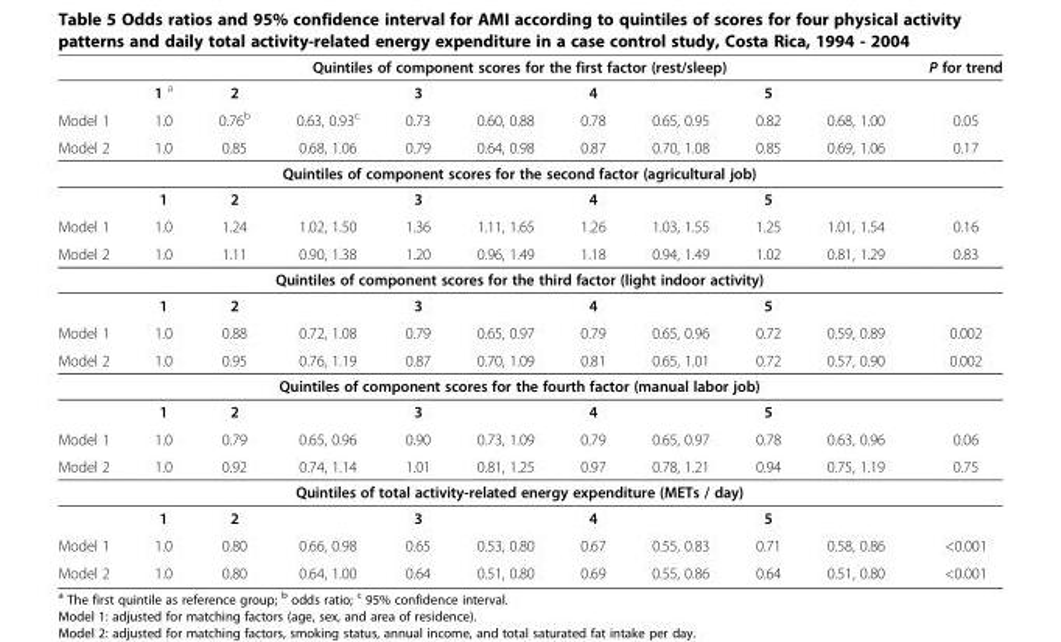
<table><thead><tr><td rowspan="2"></td><td colspan="9">Quintiles of component scores for the first factor (rest/sleep)</td><td rowspan="2">P for trend</td></tr><tr><td>1 <sup>a</sup></td><td>2</td><td></td><td>3</td><td></td><td>4</td><td></td><td>5</td><td></td></tr></thead><tbody><tr><td>Model 1</td><td>1.0</td><td>0.76<sup>b</sup></td><td>0.63, 0.93<sup>c</sup></td><td>0.73</td><td>0.60, 0.88</td><td>0.78</td><td>0.65, 0.95</td><td>0.82</td><td>0.68, 1.00</td><td>0.05</td></tr><tr><td rowspan="3">Model 2</td><td>1.0</td><td>0.85</td><td>0.68, 1.06</td><td>0.79</td><td>0.64, 0.98</td><td>0.87</td><td>0.70, 1.08</td><td>0.85</td><td>0.69, 1.06</td><td>0.17</td></tr><tr><td colspan="9">Quintiles of component scores for the second factor (agricultural job)</td><td></td></tr><tr><td>1</td><td>2</td><td></td><td>3</td><td></td><td>4</td><td></td><td>5</td><td></td><td></td></tr><tr><td>Model 1</td><td>1.0</td><td>1.24</td><td>1.02, 1.50</td><td>1.36</td><td>1.11, 1.65</td><td>1.26</td><td>1.03, 1.55</td><td>1.25</td><td>1.01, 1.54</td><td>0.16</td></tr><tr><td rowspan="3">Model 2</td><td>1.0</td><td>1.11</td><td>0.90, 1.38</td><td>1.20</td><td>0.96, 1.49</td><td>1.18</td><td>0.94, 1.49</td><td>1.02</td><td>0.81, 1.29</td><td>0.83</td></tr><tr><td colspan="9">Quintiles of component scores for the third factor (light indoor activity)</td><td></td></tr><tr><td>1</td><td>2</td><td></td><td>3</td><td></td><td>4</td><td></td><td>5</td><td></td><td></td></tr><tr><td>Model 1</td><td>1.0</td><td>0.88</td><td>0.72, 1.08</td><td>0.79</td><td>0.65, 0.97</td><td>0.79</td><td>0.65, 0.96</td><td>0.72</td><td>0.59, 0.89</td><td>0.002</td></tr><tr><td rowspan="3">Model 2</td><td>1.0</td><td>0.95</td><td>0.76, 1.19</td><td>0.87</td><td>0.70, 1.09</td><td>0.81</td><td>0.65, 1.01</td><td>0.72</td><td>0.57, 0.90</td><td>0.002</td></tr><tr><td colspan="9">Quintiles of component scores for the fourth factor (manual labor job)</td><td></td></tr><tr><td>1</td><td>2</td><td></td><td>3</td><td></td><td>4</td><td></td><td>5</td><td></td><td></td></tr><tr><td>Model 1</td><td>1.0</td><td>0.79</td><td>0.65, 0.96</td><td>0.90</td><td>0.73, 1.09</td><td>0.79</td><td>0.65, 0.97</td><td>0.78</td><td>0.63, 0.96</td><td>0.06</td></tr><tr><td rowspan="3">Model 2</td><td>1.0</td><td>0.92</td><td>0.74, 1.14</td><td>1.01</td><td>0.81, 1.25</td><td>0.97</td><td>0.78, 1.21</td><td>0.94</td><td>0.75, 1.19</td><td>0.75</td></tr><tr><td colspan="9">Quintiles of total activity-related energy expenditure (METs / day)</td><td></td></tr><tr><td>1</td><td>2</td><td></td><td>3</td><td></td><td>4</td><td></td><td>5</td><td></td><td></td></tr><tr><td>Model 1</td><td>1.0</td><td>0.80</td><td>0.66, 0.98</td><td>0.65</td><td>0.53, 0.80</td><td>0.67</td><td>0.55, 0.83</td><td>0.71</td><td>0.58, 0.86</td><td>&lt;0.001</td></tr><tr><td>Model 2</td><td>1.0</td><td>0.80</td><td>0.64, 1.00</td><td>0.64</td><td>0.51, 0.80</td><td>0.69</td><td>0.55, 0.86</td><td>0.64</td><td>0.51, 0.80</td><td>&lt;0.001</td></tr></tbody></table>